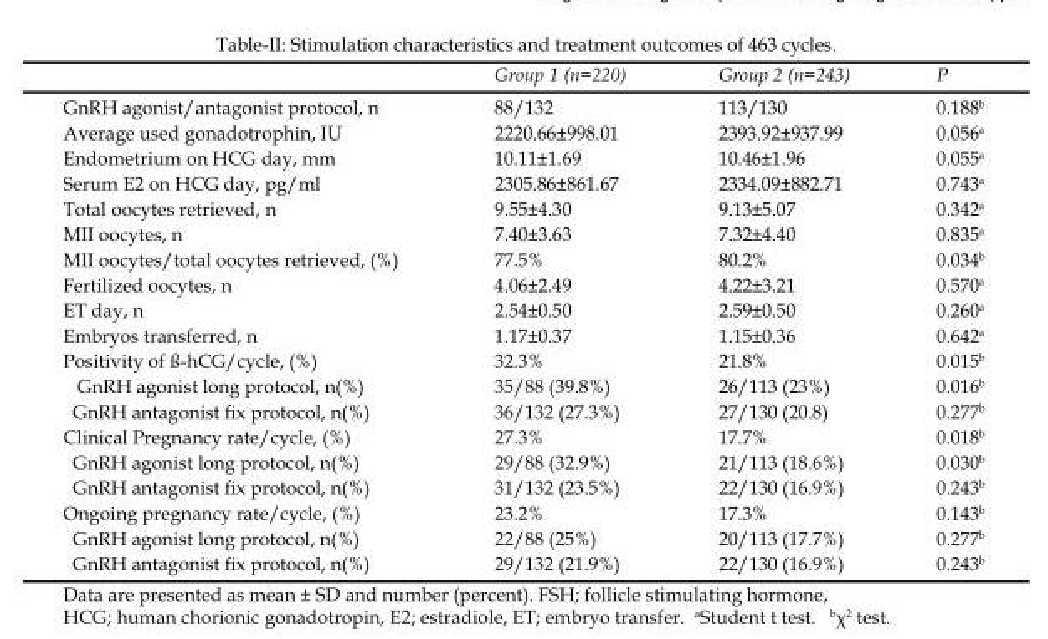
<table><thead><tr><td></td><td>Group 1 (n=220)</td><td>Group 2 (n=243)</td><td>P</td></tr></thead><tbody><tr><td>GnRH agonist/antagonist protocol, n</td><td>88/132</td><td>113/130</td><td>0.188<sup>b</sup></td></tr><tr><td>Average used gonadotrophin, IU</td><td>2220.66±998.01</td><td>2393.92±937.99</td><td>0.056<sup>a</sup></td></tr><tr><td>Endometrium on HCG day, mm</td><td>10.11±1.69</td><td>10.46±1.96</td><td>0.055<sup>a</sup></td></tr><tr><td>Serum E2 on HCG day, pg/ml</td><td>2305.86±861.67</td><td>2334.09±882.71</td><td>0.743<sup>a</sup></td></tr><tr><td>Total oocytes retrieved, n</td><td>9.55±4.30</td><td>9.13±5.07</td><td>0.342<sup>a</sup></td></tr><tr><td>MII oocytes, n</td><td>7.40±3.63</td><td>7.32±4.40</td><td>0.835<sup>a</sup></td></tr><tr><td>MII oocytes/total oocytes retrieved, (%)</td><td>77.5%</td><td>80.2%</td><td>0.034<sup>b</sup></td></tr><tr><td>Fertilized oocytes, n</td><td>4.06±2.49</td><td>4.22±3.21</td><td>0.570a</td></tr><tr><td>ET day, n</td><td>2.54±0.50</td><td>2.59±0.50</td><td>0.260a</td></tr><tr><td>Embryos transferred, n</td><td>1.17±0.37</td><td>1.15±0.36</td><td>0.642<sup>a</sup></td></tr><tr><td>Positivity of ß-hCG/cycle, (%)</td><td>32.3%</td><td>21.8%</td><td>0.015<sup>b</sup></td></tr><tr><td>GnRH agonist long protocol, n(%)</td><td>35/88 (39.8%)</td><td>26/113 (23%)</td><td>0.016<sup>b</sup></td></tr><tr><td>GnRH antagonist fix protocol, n(%)</td><td>36/132 (27.3%)</td><td>27/130 (20.8)</td><td>0.277<sup>b</sup></td></tr><tr><td>Clinical Pregnancy rate/cycle, (%)</td><td>27.3%</td><td>17.7%</td><td>0.018<sup>b</sup></td></tr><tr><td>GnRH agonist long protocol, n(%)</td><td>29/88 (32.9%)</td><td>21/113 (18.6%)</td><td>0.030<sup>b</sup></td></tr><tr><td>GnRH antagonist fix protocol, n(%)</td><td>31/132 (23.5%)</td><td>22/130 (16.9%)</td><td>0.243<sup>b</sup></td></tr><tr><td>Ongoing pregnancy rate/cycle, (%)</td><td>23.2%</td><td>17.3%</td><td>0.143<sup>b</sup></td></tr><tr><td>GnRH agonist long protocol, n(%)</td><td>22/88 (25%)</td><td>20/113 (17.7%)</td><td>0.277<sup>b</sup></td></tr><tr><td>GnRH antagonist fix protocol, n(%)</td><td>29/132 (21.9%)</td><td>22/130 (16.9%)</td><td>0.243<sup>b</sup></td></tr></tbody></table>